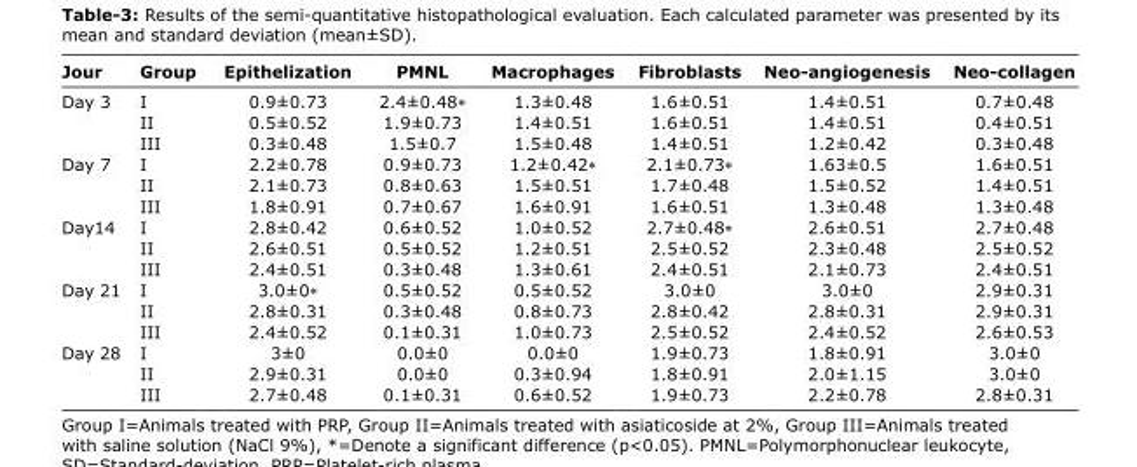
<table><thead><tr><td>Jour</td><td>Group</td><td>Epithelization</td><td>PMNL</td><td>Macrophages</td><td>Fibroblasts</td><td>Neo-angiogenesis</td><td>Neo-collagen</td></tr></thead><tbody><tr><td rowspan="3">Day 3</td><td>I</td><td>0.9±0.73</td><td>2.4±0.48∗</td><td>1.3±0.48</td><td>1.6±0.51</td><td>1.4±0.51</td><td>0.7±0.48</td></tr><tr><td>II</td><td>0.5±0.52</td><td>1.9±0.73</td><td>1.4±0.51</td><td>1.6±0.51</td><td>1.4±0.51</td><td>0.4±0.51</td></tr><tr><td>III</td><td>0.3±0.48</td><td>1.5±0.7</td><td>1.5±0.48</td><td>1.4±0.51</td><td>1.2±0.42</td><td>0.3±0.48</td></tr><tr><td rowspan="3">Day 7</td><td>I</td><td>2.2±0.78</td><td>0.9±0.73</td><td>1.2±0.42∗</td><td>2.1±0.73∗</td><td>1.63±0.5</td><td>1.6±0.51</td></tr><tr><td>II</td><td>2.1±0.73</td><td>0.8±0.63</td><td>1.5±0.51</td><td>1.7±0.48</td><td>1.5±0.52</td><td>1.4±0.51</td></tr><tr><td>III</td><td>1.8±0.91</td><td>0.7±0.67</td><td>1.6±0.91</td><td>1.6±0.51</td><td>1.3±0.48</td><td>1.3±0.48</td></tr><tr><td rowspan="3">Day14</td><td>I</td><td>2.8±0.42</td><td>0.6±0.52</td><td>1.0±0.52</td><td>2.7±0.48∗</td><td>2.6±0.51</td><td>2.7±0.48</td></tr><tr><td>II</td><td>2.6±0.51</td><td>0.5±0.52</td><td>1.2±0.51</td><td>2.5±0.52</td><td>2.3±0.48</td><td>2.5±0.52</td></tr><tr><td>III</td><td>2.4±0.51</td><td>0.3±0.48</td><td>1.3±0.61</td><td>2.4±0.51</td><td>2.1±0.73</td><td>2.4±0.51</td></tr><tr><td rowspan="3">Day 21</td><td>I</td><td>3.0±0∗</td><td>0.5±0.52</td><td>0.5±0.52</td><td>3.0±0</td><td>3.0±0</td><td>2.9±0.31</td></tr><tr><td>II</td><td>2.8±0.31</td><td>0.3±0.48</td><td>0.8±0.73</td><td>2.8±0.42</td><td>2.8±0.31</td><td>2.9±0.31</td></tr><tr><td>III</td><td>2.4±0.52</td><td>0.1±0.31</td><td>1.0±0.73</td><td>2.5±0.52</td><td>2.4±0.52</td><td>2.6±0.53</td></tr><tr><td rowspan="3">Day 28</td><td>I</td><td>3±0</td><td>0.0±0</td><td>0.0±0</td><td>1.9±0.73</td><td>1.8±0.91</td><td>3.0±0</td></tr><tr><td>II</td><td>2.9±0.31</td><td>0.0±0</td><td>0.3±0.94</td><td>1.8±0.91</td><td>2.0±1.15</td><td>3.0±0</td></tr><tr><td>III</td><td>2.7±0.48</td><td>0.1±0.31</td><td>0.6±0.52</td><td>1.9±0.73</td><td>2.2±0.78</td><td>2.8±0.31</td></tr></tbody></table>